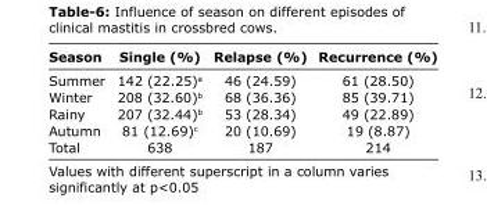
<table><thead><tr><td>Season</td><td>Single (%)</td><td>Relapse (%)</td><td>Recurrence (%)</td></tr></thead><tbody><tr><td>Summer</td><td>142 (22.25)<sup>a</sup></td><td>46 (24.59)</td><td>61 (28.50)</td></tr><tr><td>Winter</td><td>208 (32.60)<sup>b</sup></td><td>68 (36.36)</td><td>85 (39.71)</td></tr><tr><td>Rainy</td><td>207 (32.44)<sup>b</sup></td><td>53 (28.34)</td><td>49 (22.89)</td></tr><tr><td>Autumn</td><td>81 (12.69)<sup>c</sup></td><td>20 (10.69)</td><td>19 (8.87)</td></tr><tr><td>Total</td><td>638</td><td>187</td><td>214</td></tr></tbody></table>